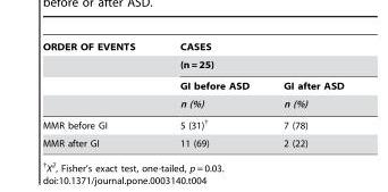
<table><thead><tr><td rowspan="4">ORDER OF EVENTS</td><td rowspan="2" colspan="2">CASES (n = 25)</td></tr><tr></tr><tr><td rowspan="2">GI before ASD n (%)</td><td rowspan="2">GI after ASD n (%)</td></tr><tr></tr></thead><tbody><tr><td>MMR before GI</td><td>5 (31)†</td><td>7 (78)</td></tr><tr><td>MMR after GI</td><td>11 (69)</td><td>2 (22)</td></tr></tbody></table>